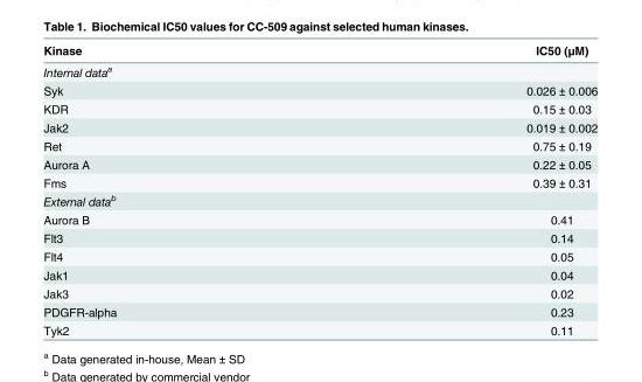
<table><thead><tr><td>Kinase</td><td>IC50 (μM)</td></tr></thead><tbody><tr><td colspan="2">Internal data<sup>a</sup></td></tr><tr><td>Syk</td><td>0.026 ± 0.006</td></tr><tr><td>KDR</td><td>0.15 ± 0.03</td></tr><tr><td>Jak2</td><td>0.019 ± 0.002</td></tr><tr><td>Ret</td><td>0.75 ± 0.19</td></tr><tr><td>Aurora A</td><td>0.22 ± 0.05</td></tr><tr><td>Fms</td><td>0.39 ± 0.31</td></tr><tr><td colspan="2">External data<sup>b</sup></td></tr><tr><td>Aurora B</td><td>0.41</td></tr><tr><td>Flt3</td><td>0.14</td></tr><tr><td>Flt4</td><td>0.05</td></tr><tr><td>Jak1</td><td>0.04</td></tr><tr><td>Jak3</td><td>0.02</td></tr><tr><td>PDGFR-alpha</td><td>0.23</td></tr><tr><td>Tyk2</td><td>0.11</td></tr></tbody></table>